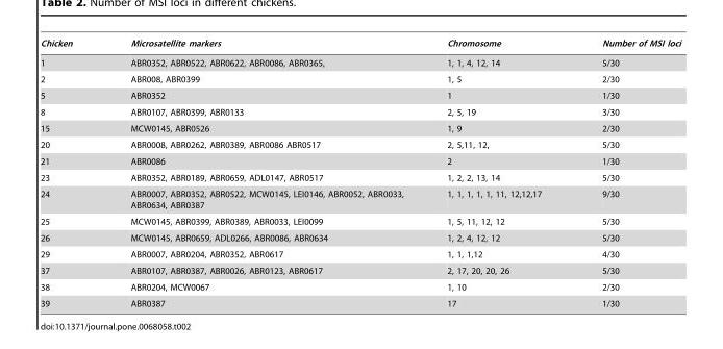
<table><thead><tr><td>Chicken</td><td>Microsatellite markers</td><td>Chromosome</td><td>Number of MSI loci</td></tr></thead><tbody><tr><td>1</td><td>ABR0352, ABR0522, ABR0622, ABR0086, ABR0365,</td><td>1, 1, 4, 12, 14</td><td>5/30</td></tr><tr><td>2</td><td>ABR008, ABR0399</td><td>1, 5</td><td>2/30</td></tr><tr><td>5</td><td>ABR0352</td><td>1</td><td>1/30</td></tr><tr><td>8</td><td>ABR0107, ABR0399, ABR0133</td><td>2, 5, 19</td><td>3/30</td></tr><tr><td>15</td><td>MCW0145, ABR0526</td><td>1, 9</td><td>2/30</td></tr><tr><td>20</td><td>ABR0008, ABR0262, ABR0389, ABR0086 ABR0517</td><td>2, 5,11, 12,</td><td>5/30</td></tr><tr><td>21</td><td>ABR0086</td><td>2</td><td>1/30</td></tr><tr><td>23</td><td>ABR0352, ABR0189, ABR0659, ADL0147, ABR0517</td><td>1, 2, 2, 13, 14</td><td>5/30</td></tr><tr><td>24</td><td>ABR0007, ABR0352, ABR0522, MCW0145, LEI0146, ABR0052, ABR0033, ABR0634, ABR0387</td><td>1, 1, 1, 1, 1, 11, 12,12,17</td><td>9/30</td></tr><tr><td>25</td><td>MCW0145, ABR0399, ABR0389, ABR0033, LEI0099</td><td>1, 5, 11, 12, 12</td><td>5/30</td></tr><tr><td>26</td><td>MCW0145, ABR0659, ADL0266, ABR0086, ABR0634</td><td>1, 2, 4, 12, 12</td><td>5/30</td></tr><tr><td>29</td><td>ABR0007, ABR0204, ABR0352, ABR0617</td><td>1, 1, 1,12</td><td>4/30</td></tr><tr><td>37</td><td>ABR0107, ABR0387, ABR0026, ABR0123, ABR0617</td><td>2, 17, 20, 20, 26</td><td>5/30</td></tr><tr><td>38</td><td>ABR0204, MCW0067</td><td>1, 10</td><td>2/30</td></tr><tr><td>39</td><td>ABR0387</td><td>17</td><td>1/30</td></tr></tbody></table>